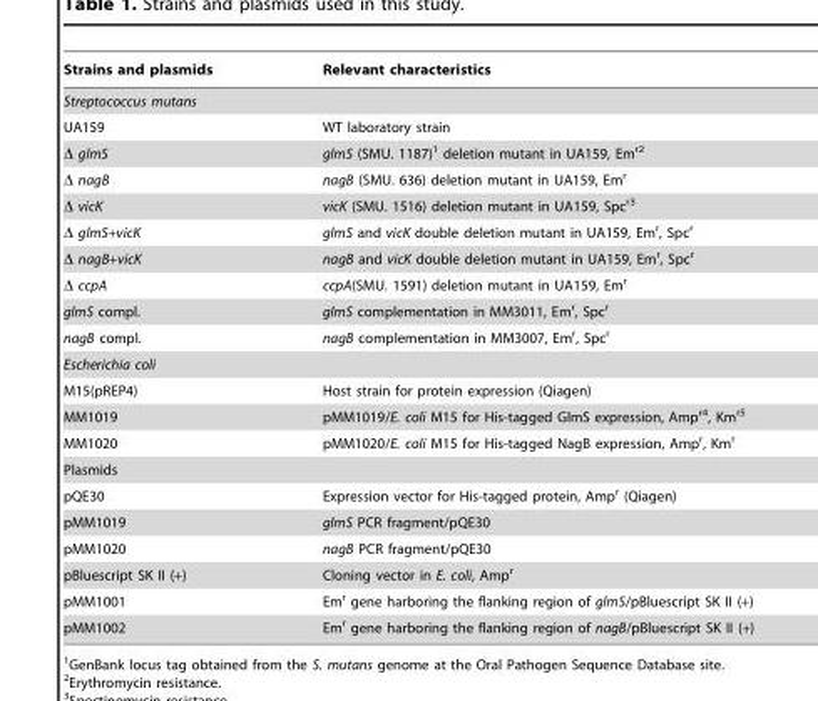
<table><thead><tr><td>Strains and plasmids</td><td>Relevant characteristics</td></tr></thead><tbody><tr><td colspan="2">Streptococcus mutans</td></tr><tr><td>UA159</td><td>WT laboratory strain</td></tr><tr><td>Δ glmS</td><td>glmS (SMU. 1187)<sup>1</sup> deletion mutant in UA159, Em<sup>r2</sup></td></tr><tr><td>Δ nagB</td><td>nagB (SMU. 636) deletion mutant in UA159, Em<sup>r</sup></td></tr><tr><td>Δ vicK</td><td>vicK (SMU. 1516) deletion mutant in UA159, Spc<sup>r3</sup></td></tr><tr><td>Δ glmS+vicK</td><td>glmS and vicK double deletion mutant in UA159, Em<sup>r</sup>, Spc<sup>r</sup></td></tr><tr><td>Δ nagB+vicK</td><td>nagB and vicK double deletion mutant in UA159, Em<sup>r</sup>, Spc<sup>r</sup></td></tr><tr><td>Δ ccpA</td><td>ccpA(SMU. 1591) deletion mutant in UA159, Em<sup>r</sup></td></tr><tr><td>glmS compl.</td><td>glmS complementation in MM3011, Em<sup>r</sup>, Spc<sup>r</sup></td></tr><tr><td>nagB compl.</td><td>nagB complementation in MM3007, Em<sup>r</sup>, Spc<sup>r</sup></td></tr><tr><td colspan="2">Escherichia coli</td></tr><tr><td>M15(pREP4)</td><td>Host strain for protein expression (Qiagen)</td></tr><tr><td>MM1019</td><td>pMM1019/E. coli M15 for His-tagged GlmS expression, Amp<sup>r4</sup>, Km<sup>r5</sup></td></tr><tr><td>MM1020</td><td>pMM1020/E. coli M15 for His-tagged NagB expression, Amp<sup>r</sup>, Km<sup>r</sup></td></tr><tr><td colspan="2">Plasmids</td></tr><tr><td>pQE30</td><td>Expression vector for His-tagged protein, Amp<sup>r</sup> (Qiagen)</td></tr><tr><td>pMM1019</td><td>glmS PCR fragment/pQE30</td></tr><tr><td>pMM1020</td><td>nagB PCR fragment/pQE30</td></tr><tr><td>pBluescript SK II (+)</td><td>Cloning vector in E. coli, Amp<sup>r</sup></td></tr><tr><td>pMM1001</td><td>Em<sup>r</sup> gene harboring the flanking region of glmS/pBluescript SK II (+)</td></tr><tr><td>pMM1002</td><td>Em<sup>r</sup> gene harboring the flanking region of nagB/pBluescript SK II (+)</td></tr></tbody></table>